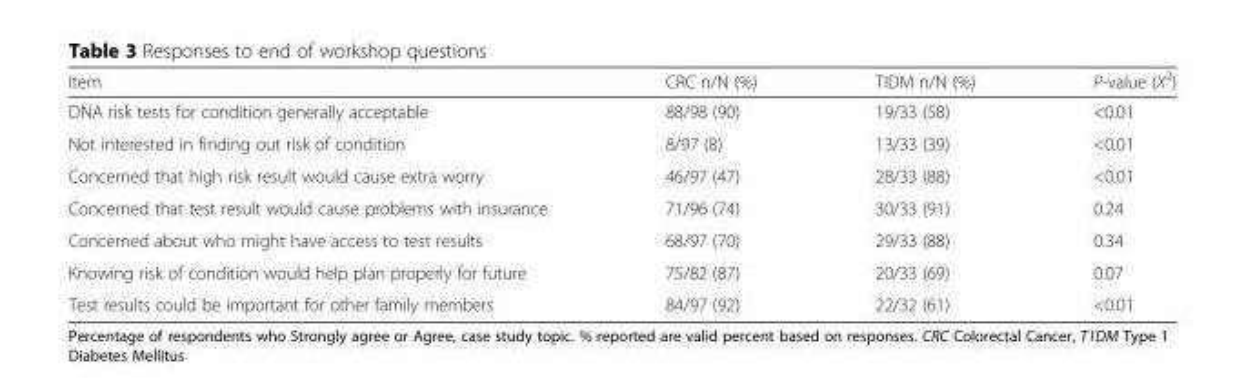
<table><thead><tr><td>Item</td><td>CRC n/N (%)</td><td>TIDM n/N (%)</td><td>P-value (Χ<sup>2</sup>)</td></tr></thead><tbody><tr><td>DNA risk tests for condition generally acceptable</td><td>88/98 (90)</td><td>19/33 (58)</td><td>&lt;0.01</td></tr><tr><td>Not interested in finding out risk of condition</td><td>8/97 (8)</td><td>13/33 (39)</td><td>&lt;0.01</td></tr><tr><td>Concerned that high risk result would cause extra worry</td><td>46/97 (47)</td><td>28/33 (88)</td><td>&lt;0.01</td></tr><tr><td>Concerned that test result would cause problems with insurance</td><td>71/96 (74)</td><td>30/33 (91)</td><td>0.24</td></tr><tr><td>Concerned about who might have access to test results</td><td>68/97 (70)</td><td>29/33 (88)</td><td>0.34</td></tr><tr><td>Knowing risk of condition would help plan properly for future</td><td>75/82 (87)</td><td>20/33 (69)</td><td>0.07</td></tr><tr><td>Test results could be important for other family members</td><td>84/97 (92)</td><td>22/32 (61)</td><td>&lt;0.01</td></tr></tbody></table>